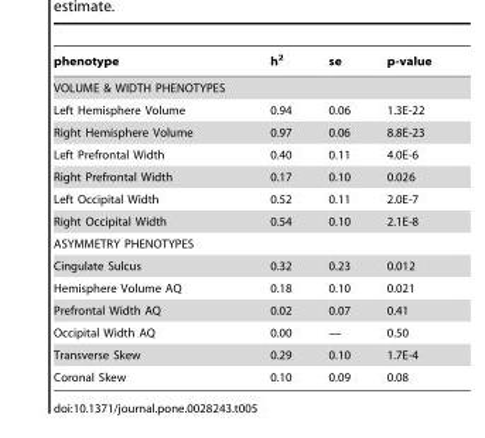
<table><thead><tr><td>phenotype</td><td>h<sup>2</sup></td><td>se</td><td>p-value</td></tr></thead><tbody><tr><td colspan="4">VOLUME &amp; WIDTH PHENOTYPES</td></tr><tr><td>Left Hemisphere Volume</td><td>0.94</td><td>0.06</td><td>1.3E-22</td></tr><tr><td>Right Hemisphere Volume</td><td>0.97</td><td>0.06</td><td>8.8E-23</td></tr><tr><td>Left Prefrontal Width</td><td>0.40</td><td>0.11</td><td>4.0E-6</td></tr><tr><td>Right Prefrontal Width</td><td>0.17</td><td>0.10</td><td>0.026</td></tr><tr><td>Left Occipital Width</td><td>0.52</td><td>0.11</td><td>2.0E-7</td></tr><tr><td>Right Occipital Width</td><td>0.54</td><td>0.10</td><td>2.1E-8</td></tr><tr><td colspan="4">ASYMMETRY PHENOTYPES</td></tr><tr><td>Cingulate Sulcus</td><td>0.32</td><td>0.23</td><td>0.012</td></tr><tr><td>Hemisphere Volume AQ</td><td>0.18</td><td>0.10</td><td>0.021</td></tr><tr><td>Prefrontal Width AQ</td><td>0.02</td><td>0.07</td><td>0.41</td></tr><tr><td>Occipital Width AQ</td><td>0.00</td><td>—</td><td>0.50</td></tr><tr><td>Transverse Skew</td><td>0.29</td><td>0.10</td><td>1.7E-4</td></tr><tr><td>Coronal Skew</td><td>0.10</td><td>0.09</td><td>0.08</td></tr></tbody></table>